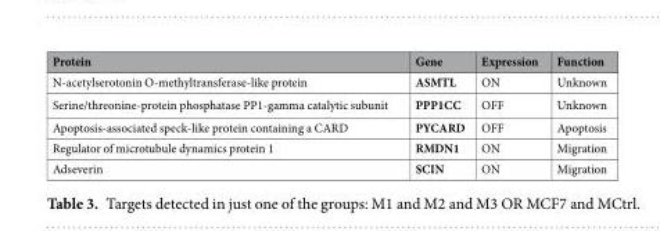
<table><thead><tr><td>Protein</td><td>Gene</td><td>Expression</td><td>Function</td></tr></thead><tbody><tr><td>N-acetylserotonin O-methyltransferase-like protein</td><td>ASMTL</td><td>ON</td><td>Unknown</td></tr><tr><td>Serine/threonine-protein phosphatase PP1-gamma catalytic subunit</td><td>PPP1CC</td><td>OFF</td><td>Unknown</td></tr><tr><td>Apoptosis-associated speck-like protein containing a CARD</td><td>PYCARD</td><td>OFF</td><td>Apoptosis</td></tr><tr><td>Regulator of microtubule dynamics protein 1</td><td>RMDN1</td><td>ON</td><td>Migration</td></tr><tr><td>Adseverin</td><td>SCIN</td><td>ON</td><td>Migration</td></tr></tbody></table>